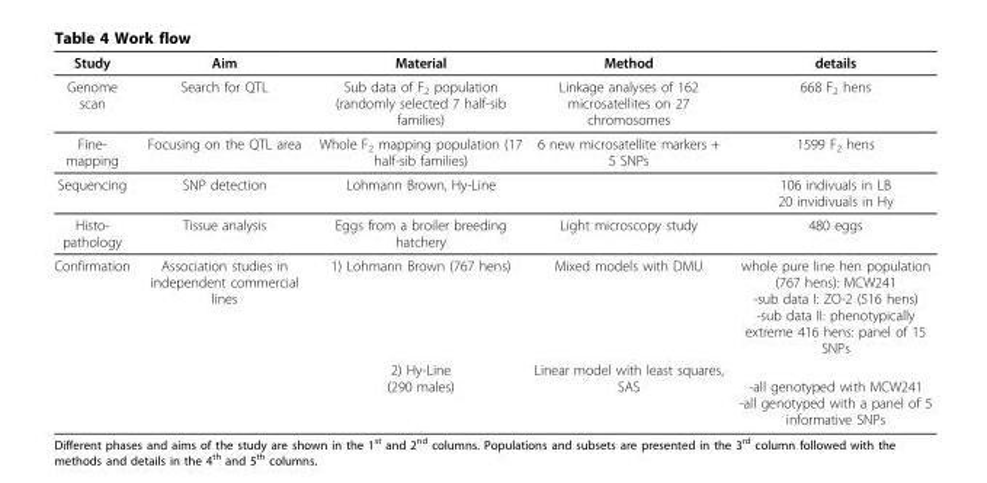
<table><thead><tr><td>Study</td><td>Aim</td><td>Material</td><td>Method</td><td>details</td></tr></thead><tbody><tr><td>Genome scan</td><td>Search for QTL</td><td>Sub data of F<sub>2</sub> population (randomly selected 7 half-sib families)</td><td>Linkage analyses of 162 microsatellites on 27 chromosomes</td><td>668 F<sub>2</sub> hens</td></tr><tr><td>Fine- mapping</td><td>Focusing on the QTL area</td><td>Whole F<sub>2</sub> mapping population (17 half-sib families)</td><td>6 new microsatellite markers + 5 SNPs</td><td>1599 F<sub>2</sub> hens</td></tr><tr><td>Sequencing</td><td>SNP detection</td><td>Lohmann Brown, Hy-Line</td><td></td><td>106 indivuals in LB 20 invidivuals in Hy</td></tr><tr><td>Histo- pathology</td><td>Tissue analysis</td><td>Eggs from a broiler breeding hatchery</td><td>Light microscopy study</td><td>480 eggs</td></tr><tr><td rowspan="2">Confirmation</td><td>Association studies in independent commercial lines</td><td>1) Lohmann Brown (767 hens)</td><td>Mixed models with DMU</td><td>whole pure line hen population (767 hens): MCW241 -sub data I: ZO-2 (516 hens) -sub data II: phenotypically extreme 416 hens: panel of 15 SNPs</td></tr><tr><td></td><td>2) Hy-Line (290 males)</td><td>Linear model with least squares, SAS</td><td>-all genotyped with MCW241 -all genotyped with a panel of 5 informative SNPs</td></tr></tbody></table>